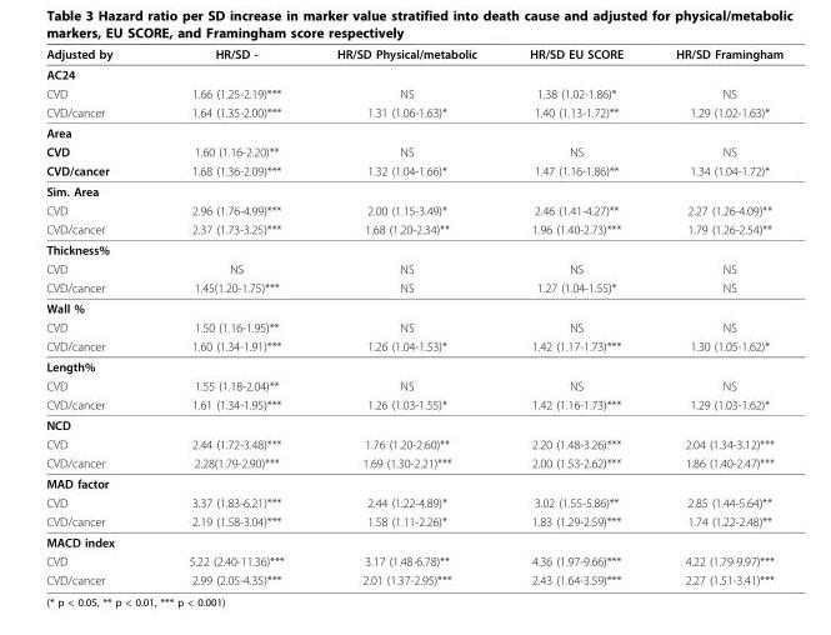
<table><thead><tr><td>Adjusted by</td><td>HR/SD -</td><td>HR/SD Physical/metabolic</td><td>HR/SD EU SCORE</td><td>HR/SD Framingham</td></tr></thead><tbody><tr><td colspan="5">AC24</td></tr><tr><td>CVD</td><td>1.66 (1.25-2.19)***</td><td>NS</td><td>1.38 (1.02-1.86)*</td><td>NS</td></tr><tr><td>CVD/cancer</td><td>1.64 (1.35-2.00)***</td><td>1.31 (1.06-1.63)*</td><td>1.40 (1.13-1.72)**</td><td>1.29 (1.02-1.63)*</td></tr><tr><td colspan="5">Area</td></tr><tr><td>CVD</td><td>1.60 (1.16-2.20)**</td><td>NS</td><td>NS</td><td>NS</td></tr><tr><td>CVD/cancer</td><td>1.68 (1.36-2.09)***</td><td>1.32 (1.04-1.66)*</td><td>1.47 (1.16-1.86)**</td><td>1.34 (1.04-1.72)*</td></tr><tr><td colspan="5">Sim. Area</td></tr><tr><td>CVD</td><td>2.96 (1.76-4.99)***</td><td>2.00 (1.15-3.49)*</td><td>2.46 (1.41-4.27)**</td><td>2.27 (1.26-4.09)**</td></tr><tr><td>CVD/cancer</td><td>2.37 (1.73-3.25)***</td><td>1.68 (1.20-2.34)**</td><td>1.96 (1.40-2.73)***</td><td>1.79 (1.26-2.54)**</td></tr><tr><td colspan="5">Thickness%</td></tr><tr><td>CVD</td><td>NS</td><td>NS</td><td>NS</td><td>NS</td></tr><tr><td>CVD/cancer</td><td>1.45(1.20-1.75)***</td><td>NS</td><td>1.27 (1.04-1.55)*</td><td>NS</td></tr><tr><td colspan="5">Wall %</td></tr><tr><td>CVD</td><td>1.50 (1.16-1.95)**</td><td>NS</td><td>NS</td><td>NS</td></tr><tr><td>CVD/cancer</td><td>1.60 (1.34-1.91)***</td><td>1.26 (1.04-1.53)*</td><td>1.42 (1.17-1.73)***</td><td>1.30 (1.05-1.62)*</td></tr><tr><td colspan="5">Length%</td></tr><tr><td>CVD</td><td>1.55 (1.18-2.04)**</td><td>NS</td><td>NS</td><td>NS</td></tr><tr><td>CVD/cancer</td><td>1.61 (1.34-1.95)***</td><td>1.26 (1.03-1.55)*</td><td>1.42 (1.16-1.73)***</td><td>1.29 (1.03-1.62)*</td></tr><tr><td colspan="5">NCD</td></tr><tr><td>CVD</td><td>2.44 (1.72-3.48)***</td><td>1.76 (1.20-2.60)**</td><td>2.20 (1.48-3.26)***</td><td>2.04 (1.34-3.12)***</td></tr><tr><td>CVD/cancer</td><td>2.28(1.79-2.90)***</td><td>1.69 (1.30-2.21)***</td><td>2.00 (1.53-2.62)***</td><td>1.86 (1.40-2.47)***</td></tr><tr><td colspan="5">MAD factor</td></tr><tr><td>CVD</td><td>3.37 (1.83-6.21)***</td><td>2.44 (1.22-4.89)*</td><td>3.02 (1.55-5.86)**</td><td>2.85 (1.44-5.64)**</td></tr><tr><td>CVD/cancer</td><td>2.19 (1.58-3.04)***</td><td>1.58 (1.11-2.26)*</td><td>1.83 (1.29-2.59)***</td><td>1.74 (1.22-2.48)**</td></tr><tr><td colspan="5">MACD index</td></tr><tr><td>CVD</td><td>5.22 (2.40-11.36)***</td><td>3.17 (1.48-6.78)**</td><td>4.36 (1.97-9.66)***</td><td>4.22 (1.79-9.97)***</td></tr><tr><td>CVD/cancer</td><td>2.99 (2.05-4.35)***</td><td>2.01 (1.37-2.95)***</td><td>2.43 (1.64-3.59)***</td><td>2.27 (1.51-3.41)***</td></tr></tbody></table>